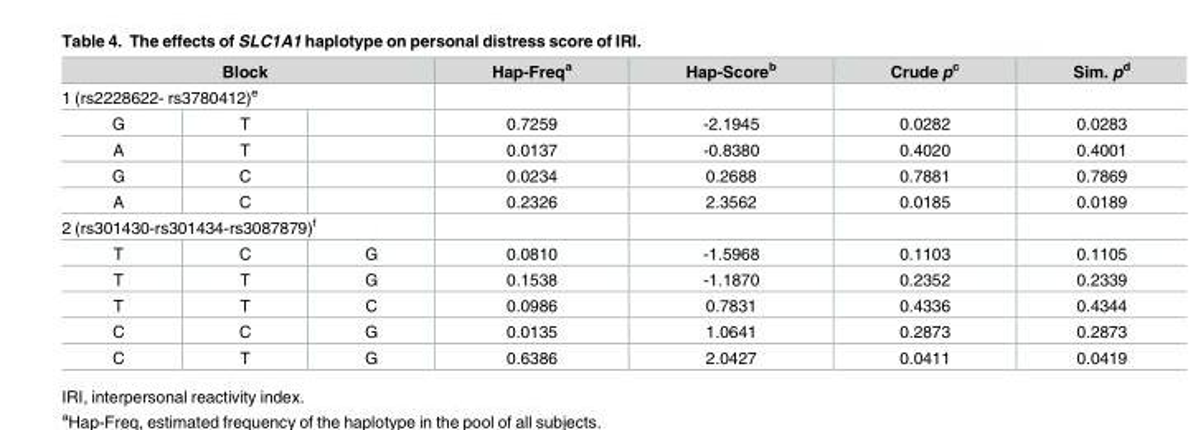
<table><thead><tr><td rowspan="2" colspan="3">Block 1 (rs2228622- rs3780412)<sup>e</sup></td><td rowspan="3">Hap-Freq<sup>a</sup> 0.7259</td><td rowspan="3">Hap-Score<sup>b</sup> -2.1945</td><td rowspan="3">Crude p<sup>c</sup> 0.0282</td><td rowspan="3">Sim. p<sup>d</sup> 0.0283</td></tr><tr></tr><tr><td>G</td><td>T</td><td></td></tr></thead><tbody><tr><td>A</td><td>T</td><td></td><td>0.0137</td><td>-0.8380</td><td>0.4020</td><td>0.4001</td></tr><tr><td>G</td><td>C</td><td></td><td>0.0234</td><td>0.2688</td><td>0.7881</td><td>0.7869</td></tr><tr><td>A</td><td>C</td><td></td><td>0.2326</td><td>2.3562</td><td>0.0185</td><td>0.0189</td></tr><tr><td colspan="7">2 (rs301430-rs301434-rs3087879)<sup>f</sup></td></tr><tr><td>T</td><td>C</td><td>G</td><td>0.0810</td><td>-1.5968</td><td>0.1103</td><td>0.1105</td></tr><tr><td>T</td><td>T</td><td>G</td><td>0.1538</td><td>-1.1870</td><td>0.2352</td><td>0.2339</td></tr><tr><td>T</td><td>T</td><td>C</td><td>0.0986</td><td>0.7831</td><td>0.4336</td><td>0.4344</td></tr><tr><td>C</td><td>C</td><td>G</td><td>0.0135</td><td>1.0641</td><td>0.2873</td><td>0.2873</td></tr><tr><td>C</td><td>T</td><td>G</td><td>0.6386</td><td>2.0427</td><td>0.0411</td><td>0.0419</td></tr></tbody></table>